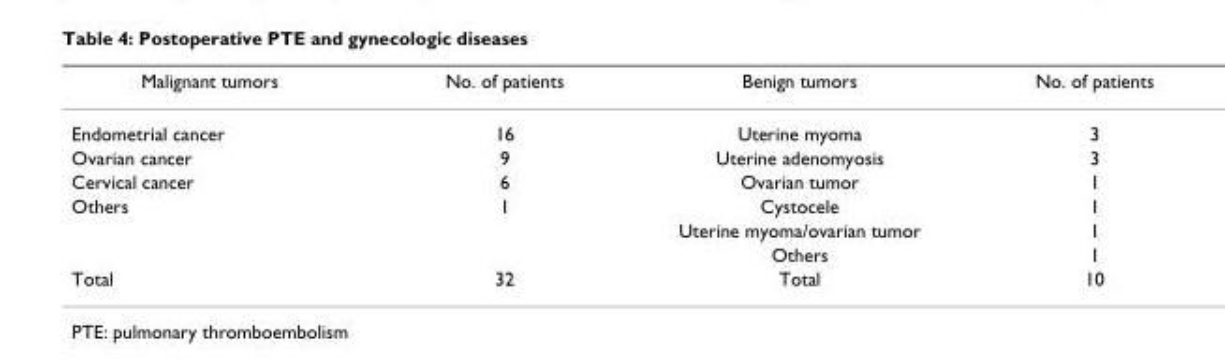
<table><thead><tr><td>Malignant tumors</td><td>No. of patients</td><td>Benign tumors</td><td>No. of patients</td></tr></thead><tbody><tr><td>Endometrial cancer</td><td>16</td><td>Uterine myoma</td><td>3</td></tr><tr><td>Ovarian cancer</td><td>9</td><td>Uterine adenomyosis</td><td>3</td></tr><tr><td>Cervical cancer</td><td>6</td><td>Ovarian tumor</td><td>1</td></tr><tr><td rowspan="3">Others</td><td>1</td><td>Cystocele</td><td>1</td></tr><tr><td></td><td>Uterine myoma/ovarian tumor</td><td>1</td></tr><tr><td></td><td>Others</td><td>1</td></tr><tr><td>Total</td><td>32</td><td>Total</td><td>10</td></tr></tbody></table>